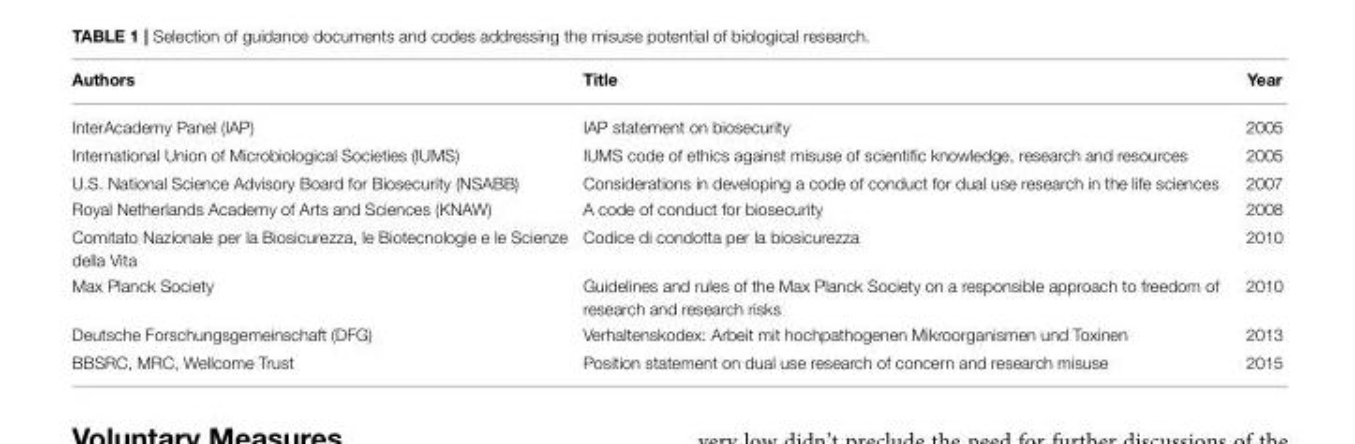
<table><thead><tr><td>Authors</td><td>Title</td><td>Year</td></tr></thead><tbody><tr><td>InterAcademy Panel (IAP)</td><td>IAP statement on biosecurity</td><td>2005</td></tr><tr><td>International Union of Microbiological Societies (IUMS)</td><td>IUMS code of ethics against misuse of scientific knowledge, research and resources</td><td>2005</td></tr><tr><td>U.S. National Science Advisory Board for Biosecurity (NSABB)</td><td>Considerations in developing a code of conduct for dual use research in the life sciences</td><td>2007</td></tr><tr><td>Royal Netherlands Academy of Arts and Sciences (KNAW)</td><td>A code of conduct for biosecurity</td><td>2008</td></tr><tr><td>Comitato Nazionale per la Biosicurezza, le Biotecnologie e le Scienze della Vita</td><td>Codice di condotta per la biosicurezza</td><td>2010</td></tr><tr><td>Max Planck Society</td><td>Guidelines and rules of the Max Planck Society on a responsible approach to freedom of research and research risks</td><td>2010</td></tr><tr><td>Deutsche Forschungsgemeinschaft (DFG)</td><td>Verhaltenskodex: Arbeit mit hochpathogenen Mikroorganismen und Toxinen</td><td>2013</td></tr><tr><td>BBSRC, MRC, Wellcome Trust</td><td>Position statement on dual use research of concern and research misuse</td><td>2015</td></tr></tbody></table>